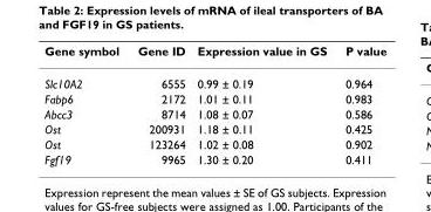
<table><thead><tr><td>Gene symbol</td><td>Gene ID</td><td>Expression value in GS</td><td>P value</td></tr></thead><tbody><tr><td>Slc10A2</td><td>6555</td><td>0.99 ± 0.19</td><td>0.964</td></tr><tr><td>Fabp6</td><td>2172</td><td>1.01 ± 0.11</td><td>0.983</td></tr><tr><td>Abcc3</td><td>8714</td><td>1.08 ± 0.07</td><td>0.586</td></tr><tr><td>Ost</td><td>200931</td><td>1.18 ± 0.11</td><td>0.425</td></tr><tr><td>Ost</td><td>123264</td><td>1.02 ± 0.08</td><td>0.902</td></tr><tr><td>Fgf19</td><td>9965</td><td>1.30 ± 0.20</td><td>0.411</td></tr></tbody></table>